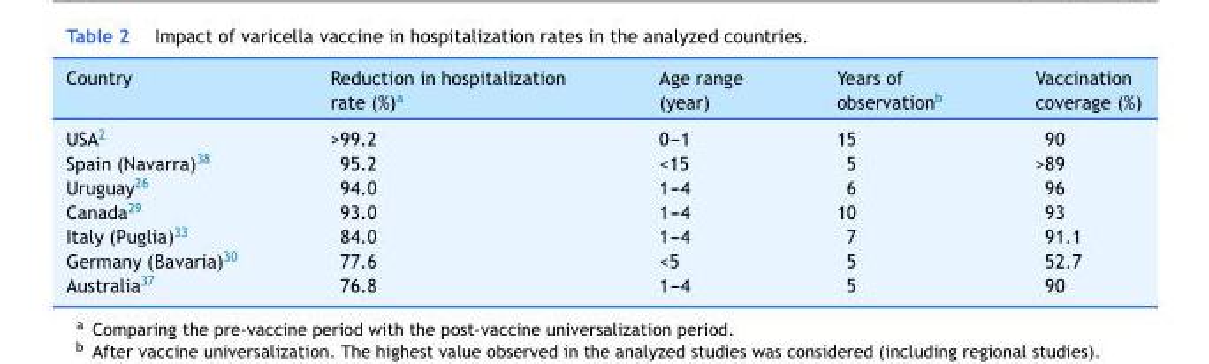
<table><thead><tr><td>Country</td><td>Reduction in hospitalization rate (%)<sup>a</sup></td><td>Age range (year)</td><td>Years of observation<sup>b</sup></td><td>Vaccination coverage (%)</td></tr></thead><tbody><tr><td>USA<sup>2</sup></td><td>&gt;99.2</td><td>0---1</td><td>15</td><td>90</td></tr><tr><td>Spain (Navarra)<sup>38</sup></td><td>95.2</td><td>&lt;15</td><td>5</td><td>&gt;89</td></tr><tr><td>Uruguay<sup>26</sup></td><td>94.0</td><td>1---4</td><td>6</td><td>96</td></tr><tr><td>Canada<sup>29</sup></td><td>93.0</td><td>1---4</td><td>10</td><td>93</td></tr><tr><td>Italy (Puglia)<sup>33</sup></td><td>84.0</td><td>1---4</td><td>7</td><td>91.1</td></tr><tr><td>Germany (Bavaria)<sup>30</sup></td><td>77.6</td><td>&lt;5</td><td>5</td><td>52.7</td></tr><tr><td>Australia<sup>37</sup></td><td>76.8</td><td>1---4</td><td>5</td><td>90</td></tr></tbody></table>